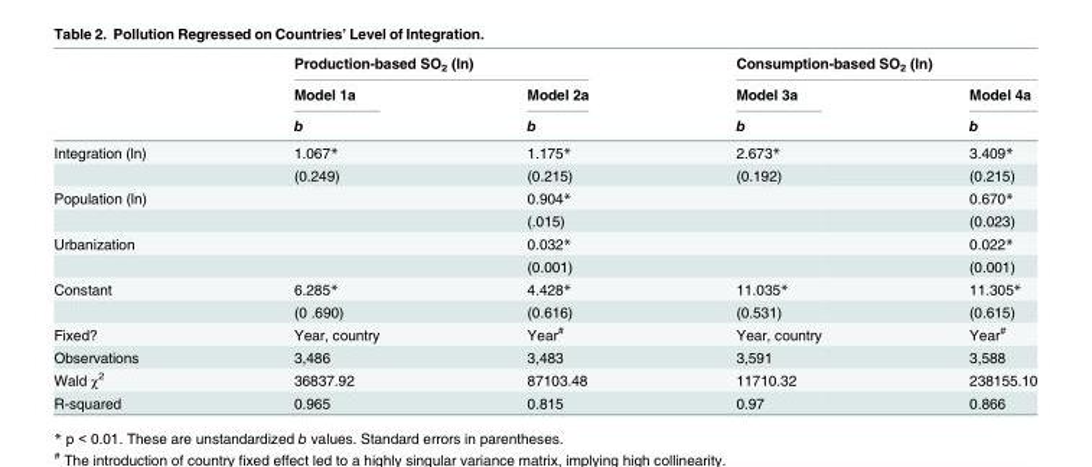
<table><thead><tr><td rowspan="3"></td><td colspan="2">Production-based SO<sub>2</sub> (ln)</td><td colspan="2">Consumption-based SO<sub>2</sub> (ln)</td></tr><tr><td rowspan="2">Model 1a b</td><td rowspan="2">Model 2a b</td><td rowspan="2">Model 3a b</td><td rowspan="2">Model 4a b</td></tr><tr></tr></thead><tbody><tr><td rowspan="2">Integration (ln)</td><td>1.067*</td><td>1.175*</td><td>2.673*</td><td>3.409*</td></tr><tr><td>(0.249)</td><td>(0.215)</td><td>(0.192)</td><td>(0.215)</td></tr><tr><td rowspan="2">Population (ln)</td><td></td><td>0.904*</td><td></td><td>0.670*</td></tr><tr><td></td><td>(.015)</td><td></td><td>(0.023)</td></tr><tr><td rowspan="2">Urbanization</td><td></td><td>0.032*</td><td></td><td>0.022*</td></tr><tr><td></td><td>(0.001)</td><td></td><td>(0.001)</td></tr><tr><td rowspan="2">Constant</td><td>6.285*</td><td>4.428*</td><td>11.035*</td><td>11.305*</td></tr><tr><td>(0 .690)</td><td>(0.616)</td><td>(0.531)</td><td>(0.615)</td></tr><tr><td>Fixed?</td><td>Year, country</td><td>Year<sup>#</sup></td><td>Year, country</td><td>Year<sup>#</sup></td></tr><tr><td>Observations</td><td>3,486</td><td>3,483</td><td>3,591</td><td>3,588</td></tr><tr><td>Wald χ<sup>2</sup></td><td>36837.92</td><td>87103.48</td><td>11710.32</td><td>238155.10</td></tr><tr><td>R-squared</td><td>0.965</td><td>0.815</td><td>0.97</td><td>0.866</td></tr></tbody></table>